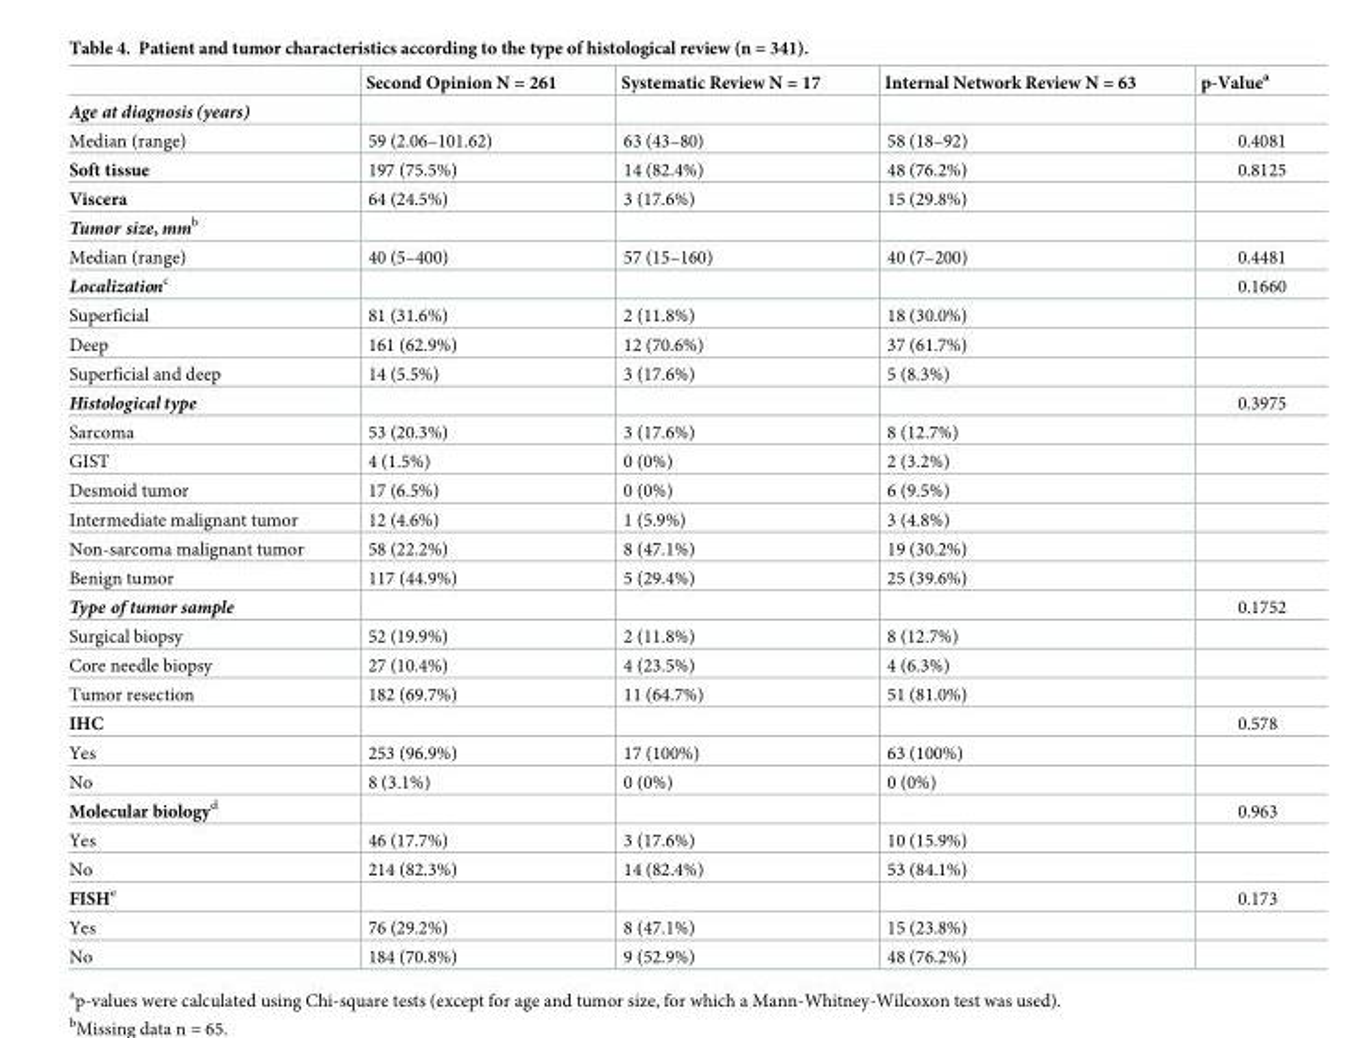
<table><thead><tr><td></td><td>Second Opinion N = 261</td><td>Systematic Review N = 17</td><td>Internal Network Review N = 63</td><td>p-Value<sup>a</sup></td></tr></thead><tbody><tr><td colspan="5">Age at diagnosis (years)</td></tr><tr><td>Median (range)</td><td>59 (2.06–101.62)</td><td>63 (43–80)</td><td>58 (18–92)</td><td>0.4081</td></tr><tr><td>Soft tissue</td><td>197 (75.5%)</td><td>14 (82.4%)</td><td>48 (76.2%)</td><td>0.8125</td></tr><tr><td>Viscera</td><td>64 (24.5%)</td><td>3 (17.6%)</td><td>15 (29.8%)</td><td></td></tr><tr><td colspan="5">Tumor size, mm<sup>b</sup></td></tr><tr><td>Median (range)</td><td>40 (5–400)</td><td>57 (15–160)</td><td>40 (7–200)</td><td>0.4481</td></tr><tr><td>Localization<sup>c</sup></td><td></td><td></td><td></td><td>0.1660</td></tr><tr><td>Superficial</td><td>81 (31.6%)</td><td>2 (11.8%)</td><td>18 (30.0%)</td><td></td></tr><tr><td>Deep</td><td>161 (62.9%)</td><td>12 (70.6%)</td><td>37 (61.7%)</td><td></td></tr><tr><td>Superficial and deep</td><td>14 (5.5%)</td><td>3 (17.6%)</td><td>5 (8.3%)</td><td></td></tr><tr><td>Histological type</td><td></td><td></td><td></td><td>0.3975</td></tr><tr><td>Sarcoma</td><td>53 (20.3%)</td><td>3 (17.6%)</td><td>8 (12.7%)</td><td></td></tr><tr><td>GIST</td><td>4 (1.5%)</td><td>0 (0%)</td><td>2 (3.2%)</td><td></td></tr><tr><td>Desmoid tumor</td><td>17 (6.5%)</td><td>0 (0%)</td><td>6 (9.5%)</td><td></td></tr><tr><td>Intermediate malignant tumor</td><td>12 (4.6%)</td><td>1 (5.9%)</td><td>3 (4.8%)</td><td></td></tr><tr><td>Non-sarcoma malignant tumor</td><td>58 (22.2%)</td><td>8 (47.1%)</td><td>19 (30.2%)</td><td></td></tr><tr><td>Benign tumor</td><td>117 (44.9%)</td><td>5 (29.4%)</td><td>25 (39.6%)</td><td></td></tr><tr><td>Type of tumor sample</td><td></td><td></td><td></td><td>0.1752</td></tr><tr><td>Surgical biopsy</td><td>52 (19.9%)</td><td>2 (11.8%)</td><td>8 (12.7%)</td><td></td></tr><tr><td>Core needle biopsy</td><td>27 (10.4%)</td><td>4 (23.5%)</td><td>4 (6.3%)</td><td></td></tr><tr><td>Tumor resection</td><td>182 (69.7%)</td><td>11 (64.7%)</td><td>51 (81.0%)</td><td></td></tr><tr><td>IHC</td><td></td><td></td><td></td><td>0.578</td></tr><tr><td>Yes</td><td>253 (96.9%)</td><td>17 (100%)</td><td>63 (100%)</td><td></td></tr><tr><td>No</td><td>8 (3.1%)</td><td>0 (0%)</td><td>0 (0%)</td><td></td></tr><tr><td>Molecular biology<sup>d</sup></td><td></td><td></td><td></td><td>0.963</td></tr><tr><td>Yes</td><td>46 (17.7%)</td><td>3 (17.6%)</td><td>10 (15.9%)</td><td></td></tr><tr><td>No</td><td>214 (82.3%)</td><td>14 (82.4%)</td><td>53 (84.1%)</td><td></td></tr><tr><td>FISH<sup>e</sup></td><td></td><td></td><td></td><td>0.173</td></tr><tr><td>Yes</td><td>76 (29.2%)</td><td>8 (47.1%)</td><td>15 (23.8%)</td><td></td></tr><tr><td>No</td><td>184 (70.8%)</td><td>9 (52.9%)</td><td>48 (76.2%)</td><td></td></tr></tbody></table>